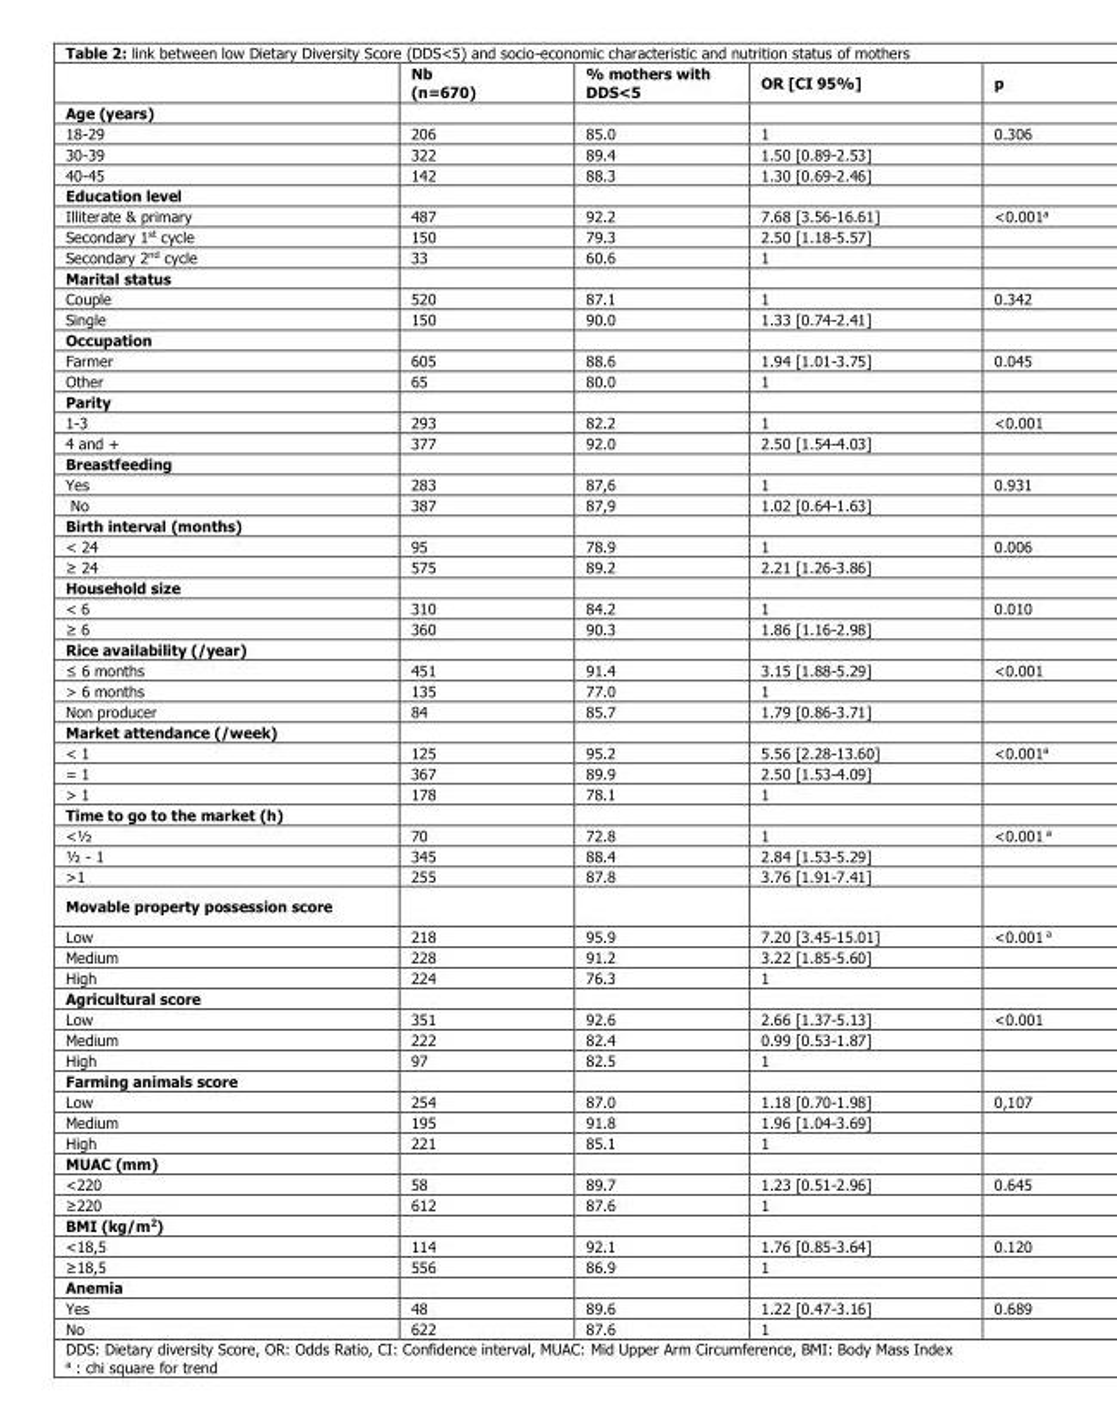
<table><thead><tr><td></td><td>Nb (n=670)</td><td>% mothers with DDS&lt;5</td><td>OR [CI 95%]</td><td>p</td></tr></thead><tbody><tr><td colspan="5">Age (years)</td></tr><tr><td>18-29</td><td>206</td><td>85.0</td><td>1</td><td>0.306</td></tr><tr><td>30-39</td><td>322</td><td>89.4</td><td>1.50 [0.89-2.53]</td><td></td></tr><tr><td>40-45</td><td>142</td><td>88.3</td><td>1.30 [0.69-2.46]</td><td></td></tr><tr><td colspan="5">Education level</td></tr><tr><td>Illiterate &amp; primary</td><td>487</td><td>92.2</td><td>7.68 [3.56-16.61]</td><td>&lt;0.001<sup>a</sup></td></tr><tr><td>Secondary 1<sup>st</sup> cycle</td><td>150</td><td>79.3</td><td>2.50 [1.18-5.57]</td><td></td></tr><tr><td>Secondary 2<sup>nd</sup> cycle</td><td>33</td><td>60.6</td><td>1</td><td></td></tr><tr><td colspan="5">Marital status</td></tr><tr><td>Couple</td><td>520</td><td>87.1</td><td>1</td><td>0.342</td></tr><tr><td>Single</td><td>150</td><td>90.0</td><td>1.33 [0.74-2.41]</td><td></td></tr><tr><td colspan="5">Occupation</td></tr><tr><td>Farmer</td><td>605</td><td>88.6</td><td>1.94 [1.01-3.75]</td><td>0.045</td></tr><tr><td>Other</td><td>65</td><td>80.0</td><td>1</td><td></td></tr><tr><td colspan="5">Parity</td></tr><tr><td>1-3</td><td>293</td><td>82.2</td><td>1</td><td>&lt;0.001</td></tr><tr><td>4 and +</td><td>377</td><td>92.0</td><td>2.50 [1.54-4.03]</td><td></td></tr><tr><td colspan="5">Breastfeeding</td></tr><tr><td>Yes</td><td>283</td><td>87,6</td><td>1</td><td>0.931</td></tr><tr><td>No</td><td>387</td><td>87,9</td><td>1.02 [0.64-1.63]</td><td></td></tr><tr><td colspan="5">Birth interval (months)</td></tr><tr><td>&lt; 24</td><td>95</td><td>78.9</td><td>1</td><td>0.006</td></tr><tr><td>≥ 24</td><td>575</td><td>89.2</td><td>2.21 [1.26-3.86]</td><td></td></tr><tr><td colspan="5">Household size</td></tr><tr><td>&lt; 6</td><td>310</td><td>84.2</td><td>1</td><td>0.010</td></tr><tr><td>≥ 6</td><td>360</td><td>90.3</td><td>1.86 [1.16-2.98]</td><td></td></tr><tr><td colspan="5">Rice availability (/year)</td></tr><tr><td>≤ 6 months</td><td>451</td><td>91.4</td><td>3.15 [1.88-5.29]</td><td>&lt;0.001</td></tr><tr><td>&gt; 6 months</td><td>135</td><td>77.0</td><td>1</td><td></td></tr><tr><td>Non producer</td><td>84</td><td>85.7</td><td>1.79 [0.86-3.71]</td><td></td></tr><tr><td colspan="5">Market attendance (/week)</td></tr><tr><td>&lt; 1</td><td>125</td><td>95.2</td><td>5.56 [2.28-13.60]</td><td>&lt;0.001<sup>a</sup></td></tr><tr><td>= 1</td><td>367</td><td>89.9</td><td>2.50 [1.53-4.09]</td><td></td></tr><tr><td>&gt; 1</td><td>178</td><td>78.1</td><td>1</td><td></td></tr><tr><td colspan="5">Time to go to the market (h)</td></tr><tr><td>&lt;½</td><td>70</td><td>72.8</td><td>1</td><td>&lt;0.001 <sup>a</sup></td></tr><tr><td>½ - 1</td><td>345</td><td>88.4</td><td>2.84 [1.53-5.29]</td><td></td></tr><tr><td>&gt;1</td><td>255</td><td>87.8</td><td>3.76 [1.91-7.41]</td><td></td></tr><tr><td colspan="5">Movable property possession score</td></tr><tr><td>Low</td><td>218</td><td>95.9</td><td>7.20 [3.45-15.01]</td><td>&lt;0.001 <sup>a</sup></td></tr><tr><td>Medium</td><td>228</td><td>91.2</td><td>3.22 [1.85-5.60]</td><td></td></tr><tr><td>High</td><td>224</td><td>76.3</td><td>1</td><td></td></tr><tr><td colspan="5">Agricultural score</td></tr><tr><td>Low</td><td>351</td><td>92.6</td><td>2.66 [1.37-5.13]</td><td>&lt;0.001</td></tr><tr><td>Medium</td><td>222</td><td>82.4</td><td>0.99 [0.53-1.87]</td><td></td></tr><tr><td>High</td><td>97</td><td>82.5</td><td>1</td><td></td></tr><tr><td colspan="5">Farming animals score</td></tr><tr><td>Low</td><td>254</td><td>87.0</td><td>1.18 [0.70-1.98]</td><td>0,107</td></tr><tr><td>Medium</td><td>195</td><td>91.8</td><td>1.96 [1.04-3.69]</td><td></td></tr><tr><td>High</td><td>221</td><td>85.1</td><td>1</td><td></td></tr><tr><td colspan="5">MUAC (mm)</td></tr><tr><td>&lt;220</td><td>58</td><td>89.7</td><td>1.23 [0.51-2.96]</td><td>0.645</td></tr><tr><td>≥220</td><td>612</td><td>87.6</td><td>1</td><td></td></tr><tr><td colspan="5">BMI (kg/m<sup>2</sup>)</td></tr><tr><td>&lt;18,5</td><td>114</td><td>92.1</td><td>1.76 [0.85-3.64]</td><td>0.120</td></tr><tr><td>≥18,5</td><td>556</td><td>86.9</td><td>1</td><td></td></tr><tr><td colspan="5">Anemia</td></tr><tr><td>Yes</td><td>48</td><td>89.6</td><td>1.22 [0.47-3.16]</td><td>0.689</td></tr><tr><td>No</td><td>622</td><td>87.6</td><td>1</td><td></td></tr></tbody></table>